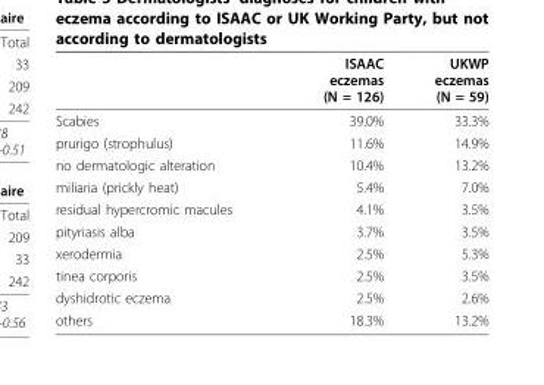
<table><thead><tr><td></td><td>ISAAC eczemas (N = 126)</td><td>UKWP eczemas (N = 59)</td></tr></thead><tbody><tr><td>Scabies</td><td>39.0%</td><td>33.3%</td></tr><tr><td>prurigo (strophulus)</td><td>11.6%</td><td>14.9%</td></tr><tr><td>no dermatologic alteration</td><td>10.4%</td><td>13.2%</td></tr><tr><td>miliaria (prickly heat)</td><td>5.4%</td><td>7.0%</td></tr><tr><td>residual hypercromic macules</td><td>4.1%</td><td>3.5%</td></tr><tr><td>pityriasis alba</td><td>3.7%</td><td>3.5%</td></tr><tr><td>xerodermia</td><td>2.5%</td><td>5.3%</td></tr><tr><td>tinea corporis</td><td>2.5%</td><td>3.5%</td></tr><tr><td>dyshidrotic eczema</td><td>2.5%</td><td>2.6%</td></tr><tr><td>others</td><td>18.3%</td><td>13.2%</td></tr></tbody></table>